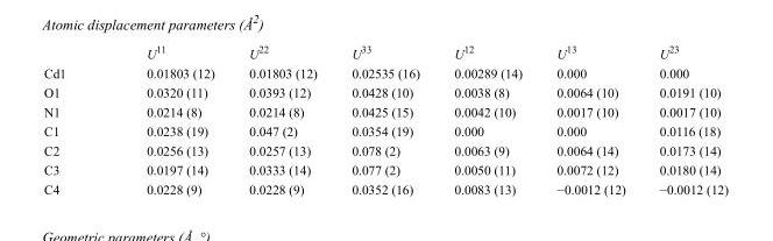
<table><thead><tr><td></td><td>U<sup>11</sup></td><td>U<sup>22</sup></td><td>U<sup>33</sup></td><td>U<sup>12</sup></td><td>U<sup>13</sup></td><td>U<sup>23</sup></td></tr></thead><tbody><tr><td>Cd1</td><td>0.01803 (12)</td><td>0.01803 (12)</td><td>0.02535 (16)</td><td>0.00289 (14)</td><td>0.000</td><td>0.000</td></tr><tr><td>O1</td><td>0.0320 (11)</td><td>0.0393 (12)</td><td>0.0428 (10)</td><td>0.0038 (8)</td><td>0.0064 (10)</td><td>0.0191 (10)</td></tr><tr><td>N1</td><td>0.0214 (8)</td><td>0.0214 (8)</td><td>0.0425 (15)</td><td>0.0042 (10)</td><td>0.0017 (10)</td><td>0.0017 (10)</td></tr><tr><td>C1</td><td>0.0238 (19)</td><td>0.047 (2)</td><td>0.0354 (19)</td><td>0.000</td><td>0.000</td><td>0.0116 (18)</td></tr><tr><td>C2</td><td>0.0256 (13)</td><td>0.0257 (13)</td><td>0.078 (2)</td><td>0.0063 (9)</td><td>0.0064 (14)</td><td>0.0173 (14)</td></tr><tr><td>C3</td><td>0.0197 (14)</td><td>0.0333 (14)</td><td>0.077 (2)</td><td>0.0050 (11)</td><td>0.0072 (12)</td><td>0.0180 (14)</td></tr><tr><td>C4</td><td>0.0228 (9)</td><td>0.0228 (9)</td><td>0.0352 (16)</td><td>0.0083 (13)</td><td>−0.0012 (12)</td><td>−0.0012 (12)</td></tr></tbody></table>